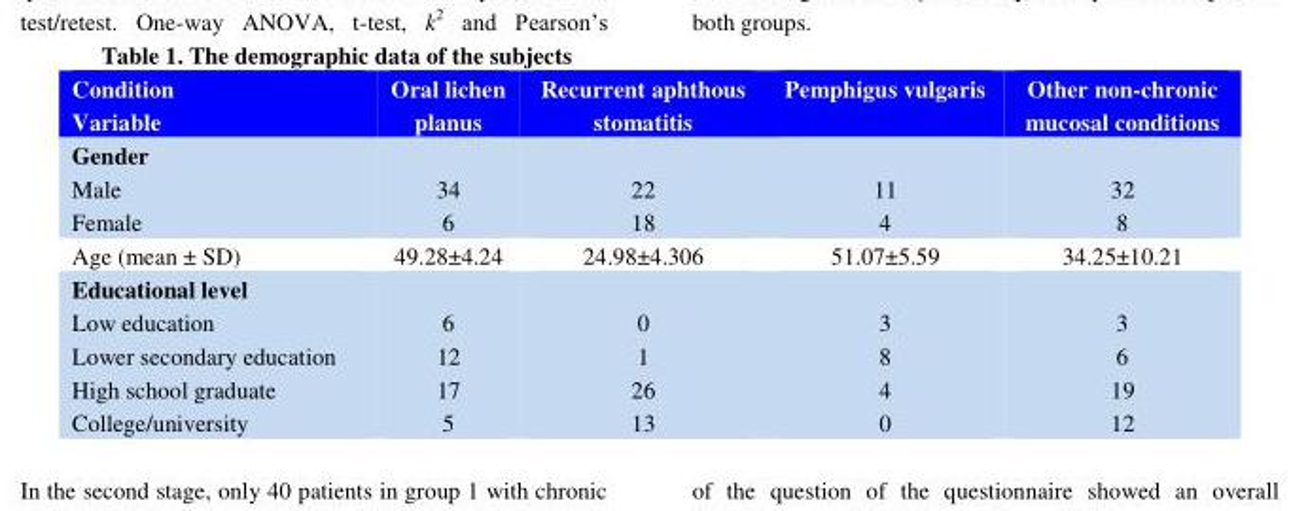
<table><thead><tr><td>Condition Variable</td><td>Oral lichen planus</td><td>Recurrent aphthous stomatitis</td><td>Pemphigus vulgaris</td><td>Other non-chronic mucosal conditions</td></tr></thead><tbody><tr><td colspan="5">Gender</td></tr><tr><td>Male Female</td><td>34 6</td><td>22 18</td><td>11 4</td><td>32 8</td></tr><tr><td>Age (mean ± SD)</td><td>49.28±4.24</td><td>24.98±4.306</td><td>51.07±5.59</td><td>34.25±10.21</td></tr><tr><td colspan="5">Educational level</td></tr><tr><td>Low education Lower secondary education High school graduate College/university</td><td>6 12 17 5</td><td>0 1 26 13</td><td>3 8 4 0</td><td>3 6 19 12</td></tr></tbody></table>